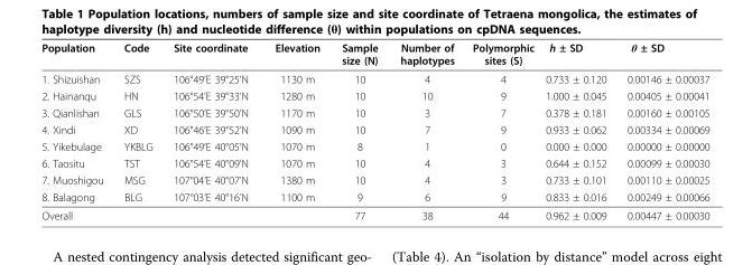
<table><thead><tr><td>Population</td><td>Code</td><td>Site coordinate</td><td>Elevation</td><td>Sample size (N)</td><td>Number of haplotypes</td><td>Polymorphic sites (S)</td><td>h ± SD</td><td>θ ± SD</td></tr></thead><tbody><tr><td>1. Shizuishan</td><td>SZS</td><td>106°49’E 39°25’N</td><td>1130 m</td><td>10</td><td>4</td><td>4</td><td>0.733 ± 0.120</td><td>0.00146 ± 0.00037</td></tr><tr><td>2. Hainanqu</td><td>HN</td><td>106°54’E 39°33’N</td><td>1280 m</td><td>10</td><td>10</td><td>9</td><td>1.000 ± 0.045</td><td>0.00405 ± 0.00041</td></tr><tr><td>3. Qianlishan</td><td>GLS</td><td>106°50’E 39°50’N</td><td>1170 m</td><td>10</td><td>3</td><td>7</td><td>0.378 ± 0.181</td><td>0.00160 ± 0.00105</td></tr><tr><td>4. Xindi</td><td>XD</td><td>106°46’E 39°52’N</td><td>1090 m</td><td>10</td><td>7</td><td>9</td><td>0.933 ± 0.062</td><td>0.00334 ± 0.00069</td></tr><tr><td>5. Yikebulage</td><td>YKBLG</td><td>106°49’E 40°05’N</td><td>1070 m</td><td>8</td><td>1</td><td>0</td><td>0.000 ± 0.000</td><td>0.00000 ± 0.00000</td></tr><tr><td>6. Taositu</td><td>TST</td><td>106°54’E 40°09’N</td><td>1070 m</td><td>10</td><td>4</td><td>3</td><td>0.644 ± 0.152</td><td>0.00099 ± 0.00030</td></tr><tr><td>7. Muoshigou</td><td>MSG</td><td>107°04’E 40°07’N</td><td>1380 m</td><td>10</td><td>4</td><td>3</td><td>0.733 ± 0.101</td><td>0.00110 ± 0.00025</td></tr><tr><td>8. Balagong</td><td>BLG</td><td>107°03’E 40°16’N</td><td>1100 m</td><td>9</td><td>6</td><td>9</td><td>0.833 ± 0.016</td><td>0.00249 ± 0.00066</td></tr><tr><td>Overall</td><td></td><td></td><td></td><td>77</td><td>38</td><td>44</td><td>0.962 ± 0.009</td><td>0.00447 ± 0.00030</td></tr></tbody></table>